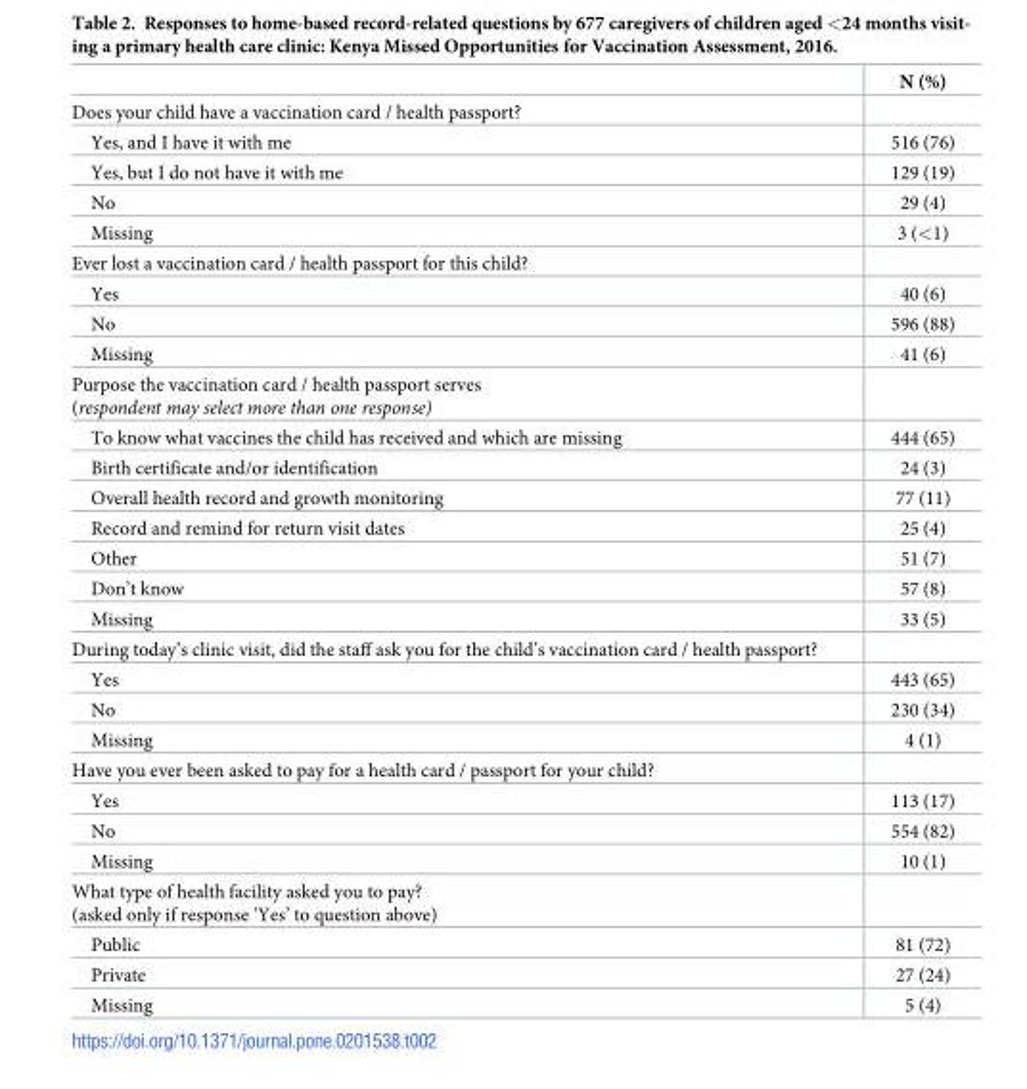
<table><thead><tr><td></td><td>N (%)</td></tr></thead><tbody><tr><td colspan="2">Does your child have a vaccination card / health passport?</td></tr><tr><td>Yes, and I have it with me</td><td>516 (76)</td></tr><tr><td>Yes, but I do not have it with me</td><td>129 (19)</td></tr><tr><td>No</td><td>29 (4)</td></tr><tr><td>Missing</td><td>3 (&lt;1)</td></tr><tr><td colspan="2">Ever lost a vaccination card / health passport for this child?</td></tr><tr><td>Yes</td><td>40 (6)</td></tr><tr><td>No</td><td>596 (88)</td></tr><tr><td>Missing</td><td>41 (6)</td></tr><tr><td colspan="2">Purpose the vaccination card / health passport serves (respondent may select more than one response)</td></tr><tr><td>To know what vaccines the child has received and which are missing</td><td>444 (65)</td></tr><tr><td>Birth certificate and/or identification</td><td>24 (3)</td></tr><tr><td>Overall health record and growth monitoring</td><td>77 (11)</td></tr><tr><td>Record and remind for return visit dates</td><td>25 (4)</td></tr><tr><td>Other</td><td>51 (7)</td></tr><tr><td>Don’t know</td><td>57 (8)</td></tr><tr><td>Missing</td><td>33 (5)</td></tr><tr><td colspan="2">During today’s clinic visit, did the staff ask you for the child’s vaccination card / health passport?</td></tr><tr><td>Yes</td><td>443 (65)</td></tr><tr><td>No</td><td>230 (34)</td></tr><tr><td>Missing</td><td>4 (1)</td></tr><tr><td colspan="2">Have you ever been asked to pay for a health card / passport for your child?</td></tr><tr><td>Yes</td><td>113 (17)</td></tr><tr><td>No</td><td>554 (82)</td></tr><tr><td>Missing</td><td>10 (1)</td></tr><tr><td colspan="2">What type of health facility asked you to pay? (asked only if response ‘Yes’ to question above)</td></tr><tr><td>Public</td><td>81 (72)</td></tr><tr><td>Private</td><td>27 (24)</td></tr><tr><td>Missing</td><td>5 (4)</td></tr></tbody></table>